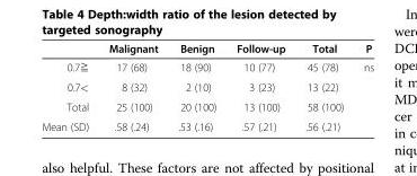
<table><thead><tr><td></td><td>Malignant</td><td>Benign</td><td>Follow-up</td><td>Total</td><td>P</td></tr></thead><tbody><tr><td>0.7≧</td><td>17 (68)</td><td>18 (90)</td><td>10 (77)</td><td>45 (78)</td><td>ns</td></tr><tr><td>0.7&lt;</td><td>8 (32)</td><td>2 (10)</td><td>3 (23)</td><td>13 (22)</td><td></td></tr><tr><td>Total</td><td>25 (100)</td><td>20 (100)</td><td>13 (100)</td><td>58 (100)</td><td></td></tr><tr><td>Mean (SD)</td><td>.58 (.24)</td><td>.53 (.16)</td><td>.57 (.21)</td><td>.56 (.21)</td><td></td></tr></tbody></table>